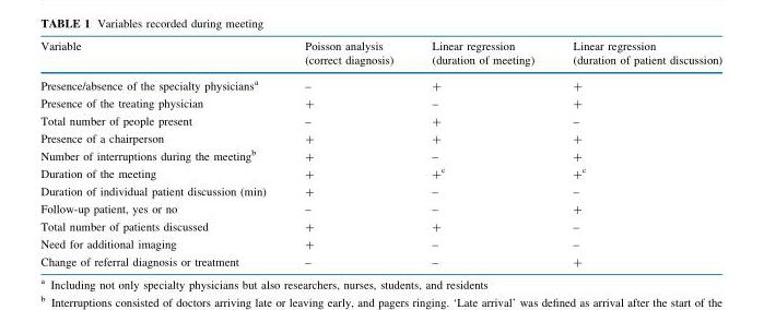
<table><thead><tr><td>Variable</td><td>Poisson analysis (correct diagnosis)</td><td>Linear regression (duration of meeting)</td><td>Linear regression (duration of patient discussion)</td></tr></thead><tbody><tr><td>Presence/absence of the specialty physicians<sup>a</sup></td><td>–</td><td>+</td><td>+</td></tr><tr><td>Presence of the treating physician</td><td>+</td><td>–</td><td>+</td></tr><tr><td>Total number of people present</td><td>–</td><td>+</td><td>–</td></tr><tr><td>Presence of a chairperson</td><td>+</td><td>+</td><td>+</td></tr><tr><td>Number of interruptions during the meeting<sup>b</sup></td><td>+</td><td>–</td><td>+</td></tr><tr><td>Duration of the meeting</td><td>+</td><td>+<sup>c</sup></td><td>+<sup>c</sup></td></tr><tr><td>Duration of individual patient discussion (min)</td><td>+</td><td>–</td><td>–</td></tr><tr><td>Follow-up patient, yes or no</td><td>–</td><td>–</td><td>+</td></tr><tr><td>Total number of patients discussed</td><td>+</td><td>+</td><td>–</td></tr><tr><td>Need for additional imaging</td><td>+</td><td>–</td><td>–</td></tr><tr><td>Change of referral diagnosis or treatment</td><td>–</td><td>–</td><td>+</td></tr></tbody></table>